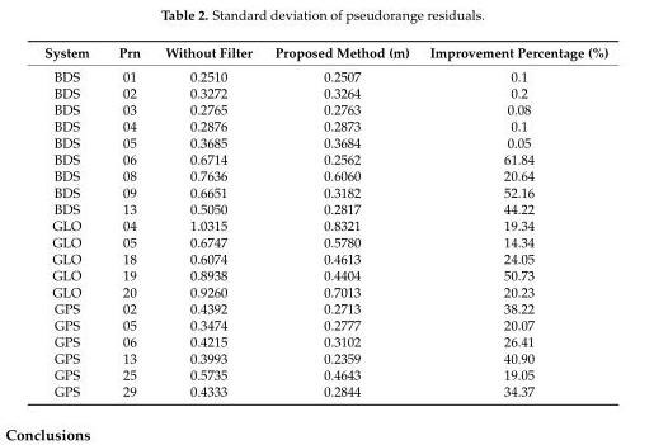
<table><thead><tr><td>System</td><td>Prn</td><td>Without Filter</td><td>Proposed Method (m)</td><td>Improvement Percentage (%)</td></tr></thead><tbody><tr><td>BDS</td><td>01</td><td>0.2510</td><td>0.2507</td><td>0.1</td></tr><tr><td>BDS</td><td>02</td><td>0.3272</td><td>0.3264</td><td>0.2</td></tr><tr><td>BDS</td><td>03</td><td>0.2765</td><td>0.2763</td><td>0.08</td></tr><tr><td>BDS</td><td>04</td><td>0.2876</td><td>0.2873</td><td>0.1</td></tr><tr><td>BDS</td><td>05</td><td>0.3685</td><td>0.3684</td><td>0.05</td></tr><tr><td>BDS</td><td>06</td><td>0.6714</td><td>0.2562</td><td>61.84</td></tr><tr><td>BDS</td><td>08</td><td>0.7636</td><td>0.6060</td><td>20.64</td></tr><tr><td>BDS</td><td>09</td><td>0.6651</td><td>0.3182</td><td>52.16</td></tr><tr><td>BDS</td><td>13</td><td>0.5050</td><td>0.2817</td><td>44.22</td></tr><tr><td>GLO</td><td>04</td><td>1.0315</td><td>0.8321</td><td>19.34</td></tr><tr><td>GLO</td><td>05</td><td>0.6747</td><td>0.5780</td><td>14.34</td></tr><tr><td>GLO</td><td>18</td><td>0.6074</td><td>0.4613</td><td>24.05</td></tr><tr><td>GLO</td><td>19</td><td>0.8938</td><td>0.4404</td><td>50.73</td></tr><tr><td>GLO</td><td>20</td><td>0.9260</td><td>0.7013</td><td>20.23</td></tr><tr><td>GPS</td><td>02</td><td>0.4392</td><td>0.2713</td><td>38.22</td></tr><tr><td>GPS</td><td>05</td><td>0.3474</td><td>0.2777</td><td>20.07</td></tr><tr><td>GPS</td><td>06</td><td>0.4215</td><td>0.3102</td><td>26.41</td></tr><tr><td>GPS</td><td>13</td><td>0.3993</td><td>0.2359</td><td>40.90</td></tr><tr><td>GPS</td><td>25</td><td>0.5735</td><td>0.4643</td><td>19.05</td></tr><tr><td>GPS</td><td>29</td><td>0.4333</td><td>0.2844</td><td>34.37</td></tr></tbody></table>